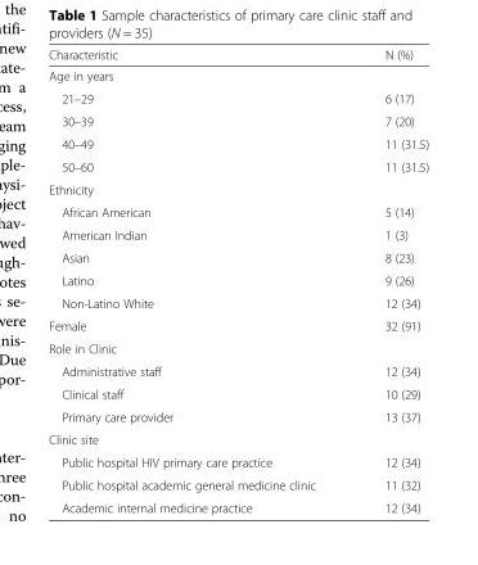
<table><thead><tr><td>Characteristic</td><td>N (%)</td></tr></thead><tbody><tr><td colspan="2">Age in years</td></tr><tr><td>21–29</td><td>6 (17)</td></tr><tr><td>30–39</td><td>7 (20)</td></tr><tr><td>40–49</td><td>11 (31.5)</td></tr><tr><td>50–60</td><td>11 (31.5)</td></tr><tr><td colspan="2">Ethnicity</td></tr><tr><td>African American</td><td>5 (14)</td></tr><tr><td>American Indian</td><td>1 (3)</td></tr><tr><td>Asian</td><td>8 (23)</td></tr><tr><td>Latino</td><td>9 (26)</td></tr><tr><td>Non-Latino White</td><td>12 (34)</td></tr><tr><td>Female</td><td>32 (91)</td></tr><tr><td colspan="2">Role in Clinic</td></tr><tr><td>Administrative staff</td><td>12 (34)</td></tr><tr><td>Clinical staff</td><td>10 (29)</td></tr><tr><td>Primary care provider</td><td>13 (37)</td></tr><tr><td colspan="2">Clinic site</td></tr><tr><td>Public hospital HIV primary care practice</td><td>12 (34)</td></tr><tr><td>Public hospital academic general medicine clinic</td><td>11 (32)</td></tr><tr><td>Academic internal medicine practice</td><td>12 (34)</td></tr></tbody></table>